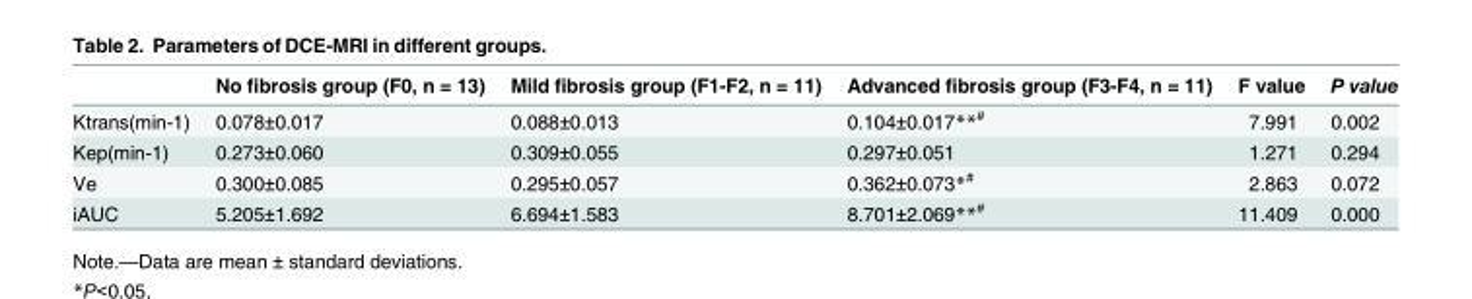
<table><thead><tr><td></td><td>No fibrosis group (F0, n = 13)</td><td>Mild fibrosis group (F1-F2, n = 11)</td><td>Advanced fibrosis group (F3-F4, n = 11)</td><td>F value</td><td>P value</td></tr></thead><tbody><tr><td>Ktrans(min-1)</td><td>0.078±0.017</td><td>0.088±0.013</td><td>0.104±0.017**<sup>#</sup></td><td>7.991</td><td>0.002</td></tr><tr><td>Kep(min-1)</td><td>0.273±0.060</td><td>0.309±0.055</td><td>0.297±0.051</td><td>1.271</td><td>0.294</td></tr><tr><td>Ve</td><td>0.300±0.085</td><td>0.295±0.057</td><td>0.362±0.073*<sup>#</sup></td><td>2.863</td><td>0.072</td></tr><tr><td>iAUC</td><td>5.205±1.692</td><td>6.694±1.583</td><td>8.701±2.069**<sup>#</sup></td><td>11.409</td><td>0.000</td></tr></tbody></table>